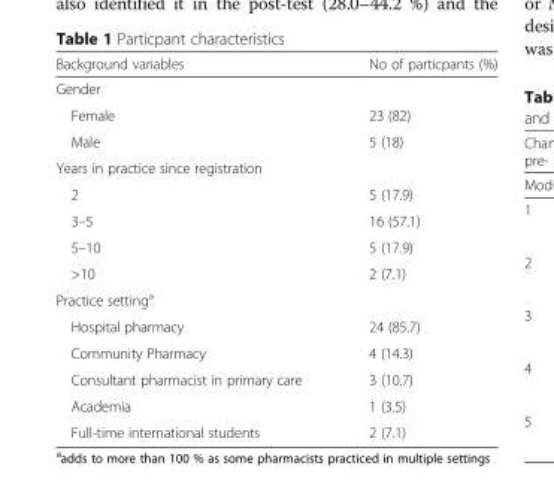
<table><thead><tr><td>Background variables</td><td>No of particpants (%)</td></tr></thead><tbody><tr><td colspan="2">Gender</td></tr><tr><td>Female</td><td>23 (82)</td></tr><tr><td>Male</td><td>5 (18)</td></tr><tr><td colspan="2">Years in practice since registration</td></tr><tr><td>2</td><td>5 (17.9)</td></tr><tr><td>3–5</td><td>16 (57.1)</td></tr><tr><td>5–10</td><td>5 (17.9)</td></tr><tr><td>&gt;10</td><td>2 (7.1)</td></tr><tr><td colspan="2">Practice setting<sup>a</sup></td></tr><tr><td>Hospital pharmacy</td><td>24 (85.7)</td></tr><tr><td>Community Pharmacy</td><td>4 (14.3)</td></tr><tr><td>Consultant pharmacist in primary care</td><td>3 (10.7)</td></tr><tr><td>Academia</td><td>1 (3.5)</td></tr><tr><td>Full-time international students</td><td>2 (7.1)</td></tr></tbody></table>